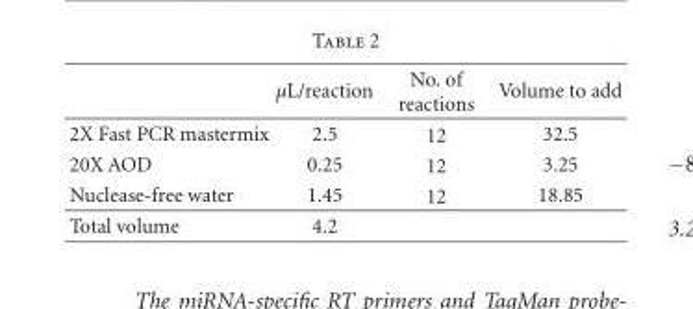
<table><thead><tr><td></td><td>µL/reaction</td><td>No. of reactions</td><td>Volume to add</td></tr></thead><tbody><tr><td>2X Fast PCR mastermix</td><td>2.5</td><td>12</td><td>32.5</td></tr><tr><td>20X AOD</td><td>0.25</td><td>12</td><td>3.25</td></tr><tr><td>Nuclease-free water</td><td>1.45</td><td>12</td><td>18.85</td></tr><tr><td>Total volume</td><td>4.2</td><td></td><td></td></tr></tbody></table>